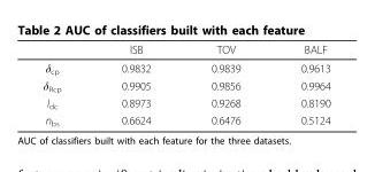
<table><thead><tr><td></td><td>ISB</td><td>TOV</td><td>BALF</td></tr></thead><tbody><tr><td>δ<sub>cp</sub></td><td>0.9832</td><td>0.9839</td><td>0.9613</td></tr><tr><td>δ<sub>Rcp</sub></td><td>0.9905</td><td>0.9856</td><td>0.9964</td></tr><tr><td>I<sub>dc</sub></td><td>0.8973</td><td>0.9268</td><td>0.8190</td></tr><tr><td>n<sub>bs</sub></td><td>0.6624</td><td>0.6476</td><td>0.5124</td></tr></tbody></table>